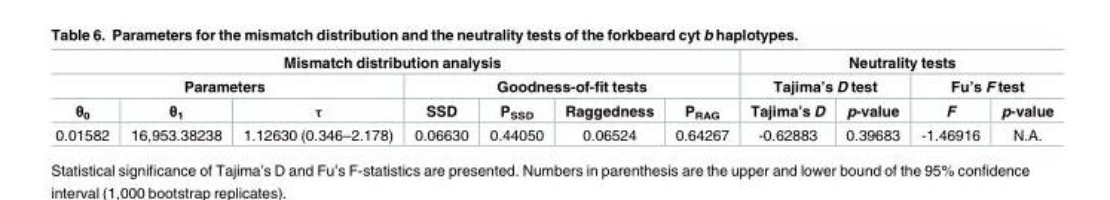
<table><thead><tr><td colspan="7">Mismatch distribution analysis</td><td colspan="4">Neutrality tests</td></tr><tr><td colspan="3">Parameters</td><td colspan="4">Goodness-of-fit tests</td><td colspan="2">Tajima’s D test</td><td colspan="2">Fu’s F test</td></tr><tr><td>θ<sub>0</sub></td><td>θ<sub>1</sub></td><td>τ</td><td>SSD</td><td>P<sub>SSD</sub></td><td>Raggedness</td><td>P<sub>RAG</sub></td><td>Tajima’s D</td><td>p-value</td><td>F</td><td>p-value</td></tr></thead><tbody><tr><td>0.01582</td><td>16,953.38238</td><td>1.12630 (0.346–2.178)</td><td>0.06630</td><td>0.44050</td><td>0.06524</td><td>0.64267</td><td>-0.62883</td><td>0.39683</td><td>-1.46916</td><td>N.A.</td></tr></tbody></table>